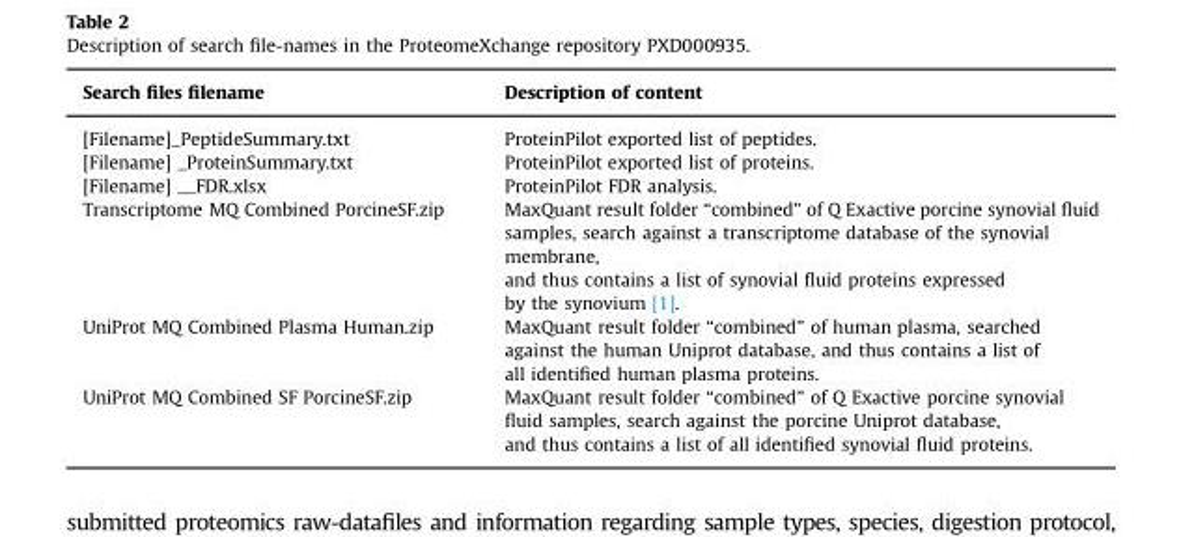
<table><thead><tr><td>Search files filename</td><td>Description of content</td></tr></thead><tbody><tr><td>[Filename]_PeptideSummary.txt</td><td>ProteinPilot exported list of peptides.</td></tr><tr><td>[Filename] _ProteinSummary.txt</td><td>ProteinPilot exported list of proteins.</td></tr><tr><td>[Filename] __FDR.xlsx</td><td>ProteinPilot FDR analysis.</td></tr><tr><td>Transcriptome MQ Combined PorcineSF.zip</td><td>MaxQuant result folder “combined” of Q Exactive porcine synovial fluid samples, search against a transcriptome database of the synovial membrane, and thus contains a list of synovial fluid proteins expressed by the synovium [1].</td></tr><tr><td>UniProt MQ Combined Plasma Human.zip</td><td>MaxQuant result folder “combined” of human plasma, searched against the human Uniprot database, and thus contains a list of all identified human plasma proteins.</td></tr><tr><td>UniProt MQ Combined SF PorcineSF.zip</td><td>MaxQuant result folder “combined” of Q Exactive porcine synovial fluid samples, search against the porcine Uniprot database, and thus contains a list of all identified synovial fluid proteins.</td></tr></tbody></table>